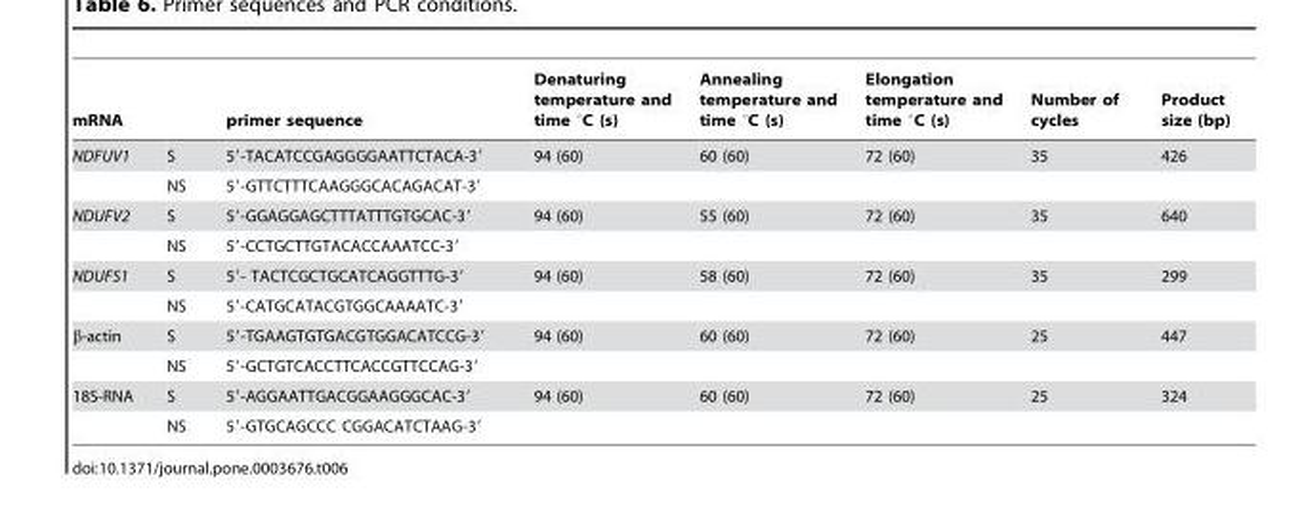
<table><thead><tr><td>mRNA</td><td></td><td>primer sequence</td><td>Denaturing temperature and time °C (s)</td><td>Annealing temperature and time °C (s)</td><td>Elongation temperature and time °C (s)</td><td>Number of cycles</td><td>Product size (bp)</td></tr></thead><tbody><tr><td rowspan="2">NDFUV1</td><td>S</td><td>5′-TACATCCGAGGGGAATTCTACA-3′</td><td>94 (60)</td><td>60 (60)</td><td>72 (60)</td><td>35</td><td>426</td></tr><tr><td>NS</td><td>5′-GTTCTTTCAAGGGCACAGACAT-3′</td><td></td><td></td><td></td><td></td><td></td></tr><tr><td rowspan="2">NDUFV2</td><td>S</td><td>5′-GGAGGAGCTTTATTTGTGCAC-3′</td><td>94 (60)</td><td>55 (60)</td><td>72 (60)</td><td>35</td><td>640</td></tr><tr><td>NS</td><td>5′-CCTGCTTGTACACCAAATCC-3′</td><td></td><td></td><td></td><td></td><td></td></tr><tr><td rowspan="2">NDUFS1</td><td>S</td><td>5′- TACTCGCTGCATCAGGTTTG-3′</td><td>94 (60)</td><td>58 (60)</td><td>72 (60)</td><td>35</td><td>299</td></tr><tr><td>NS</td><td>5′-CATGCATACGTGGCAAAATC-3′</td><td></td><td></td><td></td><td></td><td></td></tr><tr><td rowspan="2">β-actin</td><td>S</td><td>5′-TGAAGTGTGACGTGGACATCCG-3′</td><td>94 (60)</td><td>60 (60)</td><td>72 (60)</td><td>25</td><td>447</td></tr><tr><td>NS</td><td>5′-GCTGTCACCTTCACCGTTCCAG-3′</td><td></td><td></td><td></td><td></td><td></td></tr><tr><td rowspan="2">18S-RNA</td><td>S</td><td>5′-AGGAATTGACGGAAGGGCAC-3′</td><td>94 (60)</td><td>60 (60)</td><td>72 (60)</td><td>25</td><td>324</td></tr><tr><td>NS</td><td>5′-GTGCAGCCC CGGACATCTAAG-3′</td><td></td><td></td><td></td><td></td><td></td></tr></tbody></table>